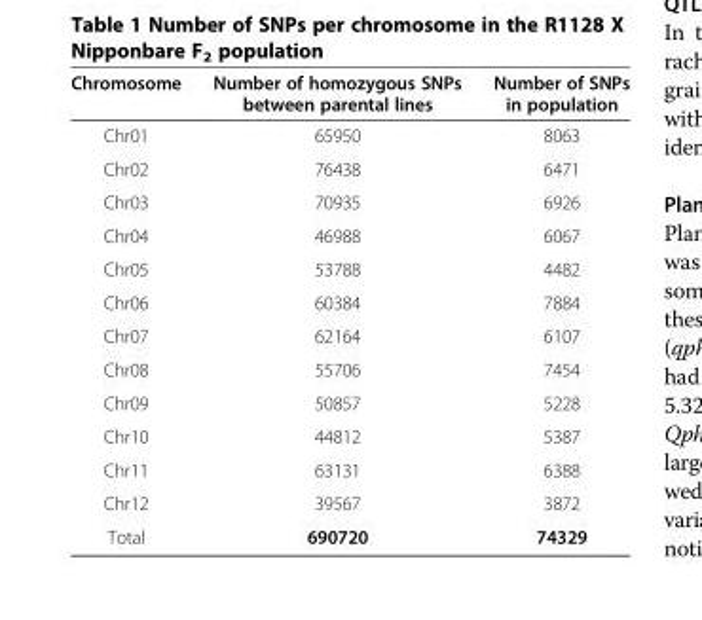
<table><thead><tr><td>Chromosome</td><td>Number of homozygous SNPs between parental lines</td><td>Number of SNPs in population</td></tr></thead><tbody><tr><td>Chr01</td><td>65950</td><td>8063</td></tr><tr><td>Chr02</td><td>76438</td><td>6471</td></tr><tr><td>Chr03</td><td>70935</td><td>6926</td></tr><tr><td>Chr04</td><td>46988</td><td>6067</td></tr><tr><td>Chr05</td><td>53788</td><td>4482</td></tr><tr><td>Chr06</td><td>60384</td><td>7884</td></tr><tr><td>Chr07</td><td>62164</td><td>6107</td></tr><tr><td>Chr08</td><td>55706</td><td>7454</td></tr><tr><td>Chr09</td><td>50857</td><td>5228</td></tr><tr><td>Chr10</td><td>44812</td><td>5387</td></tr><tr><td>Chr11</td><td>63131</td><td>6388</td></tr><tr><td>Chr12</td><td>39567</td><td>3872</td></tr><tr><td>Total</td><td>690720</td><td>74329</td></tr></tbody></table>